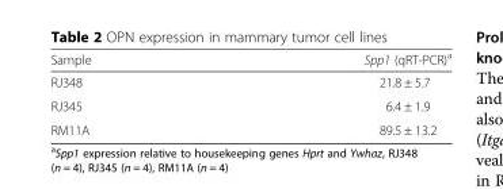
<table><thead><tr><td>Sample</td><td>Spp1 (qRT-PCR)<sup>a</sup></td></tr></thead><tbody><tr><td>RJ348</td><td>21.8 ± 5.7</td></tr><tr><td>RJ345</td><td>6.4 ± 1.9</td></tr><tr><td>RM11A</td><td>89.5 ± 13.2</td></tr></tbody></table>